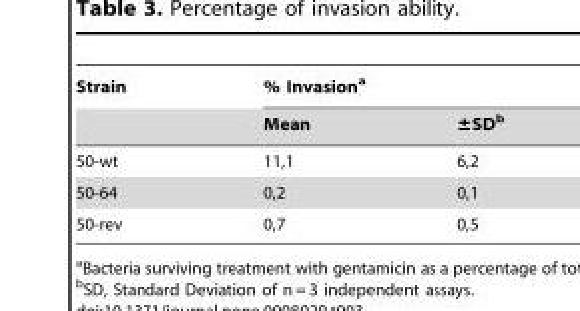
<table><thead><tr><td rowspan="2">Strain</td><td colspan="2">% Invasion<sup>a</sup></td></tr><tr><td>Mean</td><td>±SD<sup>b</sup></td></tr></thead><tbody><tr><td>50-wt</td><td>11,1</td><td>6,2</td></tr><tr><td>50-64</td><td>0,2</td><td>0,1</td></tr><tr><td>50-rev</td><td>0,7</td><td>0,5</td></tr></tbody></table>